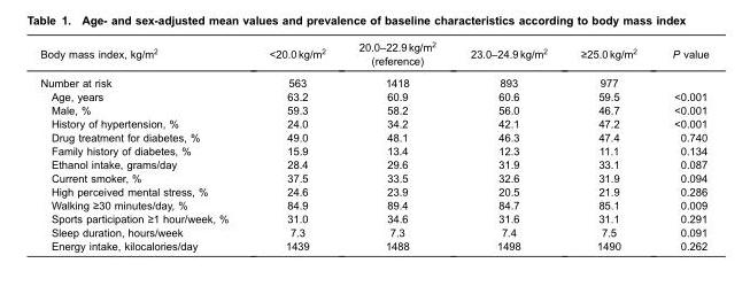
<table><thead><tr><td>Body mass index, kg/m<sup>2</sup></td><td>&lt;20.0 kg/m<sup>2</sup></td><td>20.0–22.9 kg/m<sup>2</sup> (reference)</td><td>23.0–24.9 kg/m<sup>2</sup></td><td>≥25.0 kg/m<sup>2</sup></td><td>P value</td></tr></thead><tbody><tr><td>Number at risk</td><td>563</td><td>1418</td><td>893</td><td>977</td><td></td></tr><tr><td>Age, years</td><td>63.2</td><td>60.9</td><td>60.6</td><td>59.5</td><td>&lt;0.001</td></tr><tr><td>Male, %</td><td>59.3</td><td>58.2</td><td>56.0</td><td>46.7</td><td>&lt;0.001</td></tr><tr><td>History of hypertension, %</td><td>24.0</td><td>34.2</td><td>42.1</td><td>47.2</td><td>&lt;0.001</td></tr><tr><td>Drug treatment for diabetes, %</td><td>49.0</td><td>48.1</td><td>46.3</td><td>47.4</td><td>0.740</td></tr><tr><td>Family history of diabetes, %</td><td>15.9</td><td>13.4</td><td>12.3</td><td>11.1</td><td>0.134</td></tr><tr><td>Ethanol intake, grams/day</td><td>28.4</td><td>29.6</td><td>31.9</td><td>33.1</td><td>0.087</td></tr><tr><td>Current smoker, %</td><td>37.5</td><td>33.5</td><td>32.6</td><td>31.9</td><td>0.094</td></tr><tr><td>High perceived mental stress, %</td><td>24.6</td><td>23.9</td><td>20.5</td><td>21.9</td><td>0.286</td></tr><tr><td>Walking ≥30 minutes/day, %</td><td>84.9</td><td>89.4</td><td>84.7</td><td>85.1</td><td>0.009</td></tr><tr><td>Sports participation ≥1 hour/week, %</td><td>31.0</td><td>34.6</td><td>31.6</td><td>31.1</td><td>0.291</td></tr><tr><td>Sleep duration, hours/week</td><td>7.3</td><td>7.3</td><td>7.4</td><td>7.5</td><td>0.091</td></tr><tr><td>Energy intake, kilocalories/day</td><td>1439</td><td>1488</td><td>1498</td><td>1490</td><td>0.262</td></tr></tbody></table>